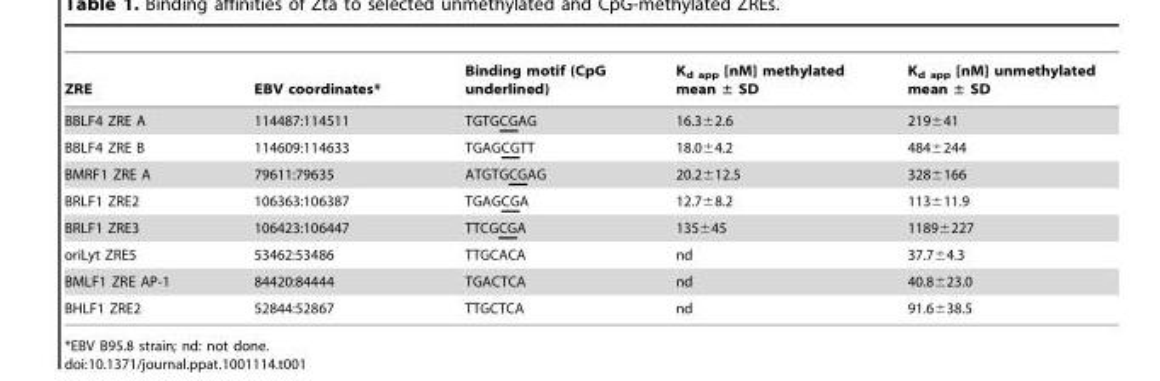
<table><thead><tr><td>ZRE</td><td>EBV coordinates*</td><td>Binding motif (CpG underlined)</td><td>K<sub>d app</sub> [nM] methylated mean ± SD</td><td>K<sub>d app</sub> [nM] unmethylated mean ± SD</td></tr></thead><tbody><tr><td>BBLF4 ZRE A</td><td>114487:114511</td><td>TGTGCGAG</td><td>16.3±2.6</td><td>219±41</td></tr><tr><td>BBLF4 ZRE B</td><td>114609:114633</td><td>TGAGCGTT</td><td>18.0±4.2</td><td>484±244</td></tr><tr><td>BMRF1 ZRE A</td><td>79611:79635</td><td>ATGTGCGAG</td><td>20.2±12.5</td><td>328±166</td></tr><tr><td>BRLF1 ZRE2</td><td>106363:106387</td><td>TGAGCGA</td><td>12.7±8.2</td><td>113±11.9</td></tr><tr><td>BRLF1 ZRE3</td><td>106423:106447</td><td>TTCGCGA</td><td>135±45</td><td>1189±227</td></tr><tr><td>oriLyt ZRE5</td><td>53462:53486</td><td>TTGCACA</td><td>nd</td><td>37.7±4.3</td></tr><tr><td>BMLF1 ZRE AP-1</td><td>84420:84444</td><td>TGACTCA</td><td>nd</td><td>40.8±23.0</td></tr><tr><td>BHLF1 ZRE2</td><td>52844:52867</td><td>TTGCTCA</td><td>nd</td><td>91.6±38.5</td></tr></tbody></table>